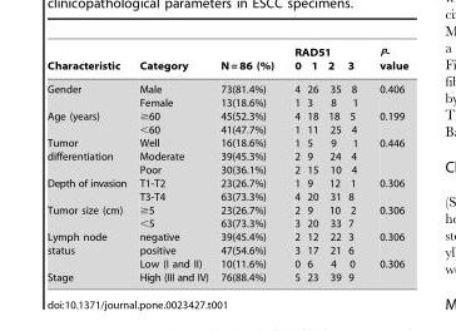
<table><thead><tr><td>Characteristic</td><td>Category</td><td>N = 86 (%)</td><td>RAD51 0 1 2 3</td><td>P- value</td></tr></thead><tbody><tr><td>Gender Age (years) Tumor differentiation Depth of invasion Tumor size (cm) Lymph node status Stage</td><td>Male Female ≥60 &lt;60 Well Moderate Poor T1-T2 T3-T4 ≥5 &lt;5 negative positive Low (I and II) High (III and IV)</td><td>73(81.4%) 13(18.6%) 45(52.3%) 41(47.7%) 16(18.6%) 39(45.3%) 30(36.1%) 23(26.7%) 63(73.3%) 23(26.7%) 63(73.3%) 39(45.4%) 47(54.6%) 10(11.6%) 76(88.4%)</td><td>4 26 35 8 1 3 8 1 4 18 18 5 1 11 25 4 1 5 9 1 2 9 24 4 2 15 10 4 1 9 12 1 4 20 31 8 2 9 10 2 3 20 33 7 2 12 22 3 3 17 21 6 0 6 4 0 5 23 39 9</td><td>0.406 0.199 0.446 0.306 0.306 0.306 0.306</td></tr></tbody></table>